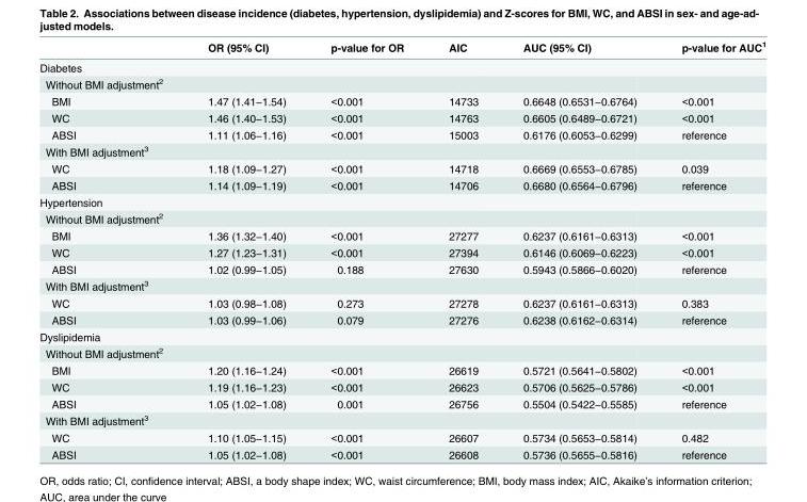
<table><thead><tr><td></td><td>OR (95% CI)</td><td>p-value for OR</td><td>AIC</td><td>AUC (95% CI)</td><td>p-value for AUC<sup>1</sup></td></tr></thead><tbody><tr><td colspan="6">Diabetes</td></tr><tr><td colspan="6">Without BMI adjustment<sup>2</sup></td></tr><tr><td>BMI</td><td>1.47 (1.41−1.54)</td><td>&lt;0.001</td><td>14733</td><td>0.6648 (0.6531−0.6764)</td><td>&lt;0.001</td></tr><tr><td>WC</td><td>1.46 (1.40−1.53)</td><td>&lt;0.001</td><td>14763</td><td>0.6605 (0.6489−0.6721)</td><td>&lt;0.001</td></tr><tr><td>ABSI</td><td>1.11 (1.06−1.16)</td><td>&lt;0.001</td><td>15003</td><td>0.6176 (0.6053−0.6299)</td><td>reference</td></tr><tr><td colspan="6">With BMI adjustment<sup>3</sup></td></tr><tr><td>WC</td><td>1.18 (1.09−1.27)</td><td>&lt;0.001</td><td>14718</td><td>0.6669 (0.6553−0.6785)</td><td>0.039</td></tr><tr><td>ABSI</td><td>1.14 (1.09−1.19)</td><td>&lt;0.001</td><td>14706</td><td>0.6680 (0.6564−0.6796)</td><td>reference</td></tr><tr><td colspan="6">Hypertension</td></tr><tr><td colspan="6">Without BMI adjustment<sup>2</sup></td></tr><tr><td>BMI</td><td>1.36 (1.32−1.40)</td><td>&lt;0.001</td><td>27277</td><td>0.6237 (0.6161−0.6313)</td><td>&lt;0.001</td></tr><tr><td>WC</td><td>1.27 (1.23−1.31)</td><td>&lt;0.001</td><td>27394</td><td>0.6146 (0.6069−0.6223)</td><td>&lt;0.001</td></tr><tr><td>ABSI</td><td>1.02 (0.99−1.05)</td><td>0.188</td><td>27630</td><td>0.5943 (0.5866−0.6020)</td><td>reference</td></tr><tr><td colspan="6">With BMI adjustment<sup>3</sup></td></tr><tr><td>WC</td><td>1.03 (0.98−1.08)</td><td>0.273</td><td>27278</td><td>0.6237 (0.6161−0.6313)</td><td>0.383</td></tr><tr><td>ABSI</td><td>1.03 (0.99−1.06)</td><td>0.079</td><td>27276</td><td>0.6238 (0.6162−0.6314)</td><td>reference</td></tr><tr><td colspan="6">Dyslipidemia</td></tr><tr><td colspan="6">Without BMI adjustment<sup>2</sup></td></tr><tr><td>BMI</td><td>1.20 (1.16−1.24)</td><td>&lt;0.001</td><td>26619</td><td>0.5721 (0.5641−0.5802)</td><td>&lt;0.001</td></tr><tr><td>WC</td><td>1.19 (1.16−1.23)</td><td>&lt;0.001</td><td>26623</td><td>0.5706 (0.5625−0.5786)</td><td>&lt;0.001</td></tr><tr><td>ABSI</td><td>1.05 (1.02−1.08)</td><td>0.001</td><td>26756</td><td>0.5504 (0.5422−0.5585)</td><td>reference</td></tr><tr><td colspan="6">With BMI adjustment<sup>3</sup></td></tr><tr><td>WC</td><td>1.10 (1.05−1.15)</td><td>&lt;0.001</td><td>26607</td><td>0.5734 (0.5653−0.5814)</td><td>0.482</td></tr><tr><td>ABSI</td><td>1.05 (1.02−1.08)</td><td>&lt;0.001</td><td>26608</td><td>0.5736 (0.5655−0.5816)</td><td>reference</td></tr></tbody></table>